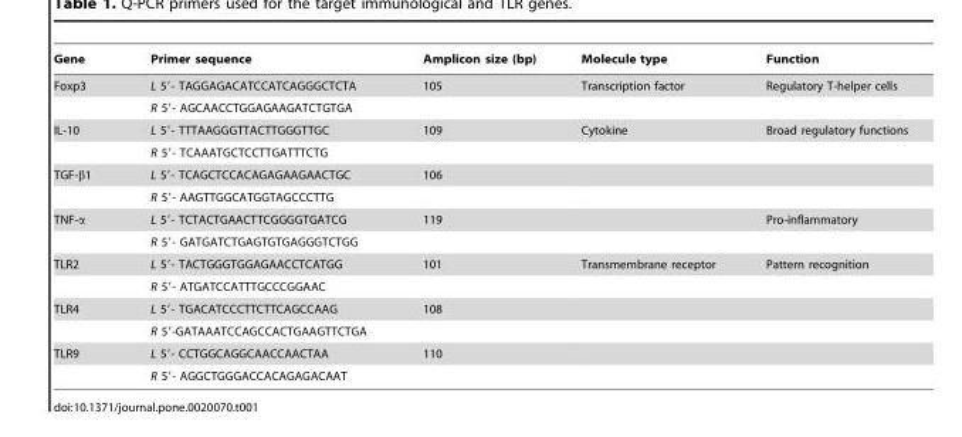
<table><thead><tr><td>Gene</td><td>Primer sequence</td><td>Amplicon size (bp)</td><td>Molecule type</td><td>Function</td></tr></thead><tbody><tr><td rowspan="2">Foxp3</td><td>L 5′- TAGGAGACATCCATCAGGGCTCTA</td><td>105</td><td>Transcription factor</td><td>Regulatory T-helper cells</td></tr><tr><td>R 5′- AGCAACCTGGAGAAGATCTGTGA</td><td></td><td></td><td></td></tr><tr><td rowspan="2">IL-10</td><td>L 5′- TTTAAGGGTTACTTGGGTTGC</td><td>109</td><td>Cytokine</td><td>Broad regulatory functions</td></tr><tr><td>R 5′- TCAAATGCTCCTTGATTTCTG</td><td></td><td></td><td></td></tr><tr><td rowspan="2">TGF-β1</td><td>L 5′- TCAGCTCCACAGAGAAGAACTGC</td><td>106</td><td></td><td></td></tr><tr><td>R 5′- AAGTTGGCATGGTAGCCCTTG</td><td></td><td></td><td></td></tr><tr><td rowspan="2">TNF-α</td><td>L 5′- TCTACTGAACTTCGGGGTGATCG</td><td>119</td><td></td><td>Pro-inflammatory</td></tr><tr><td>R 5′- GATGATCTGAGTGTGAGGGTCTGG</td><td></td><td></td><td></td></tr><tr><td rowspan="2">TLR2</td><td>L 5′- TACTGGGTGGAGAACCTCATGG</td><td>101</td><td>Transmembrane receptor</td><td>Pattern recognition</td></tr><tr><td>R 5′- ATGATCCATTTGCCCGGAAC</td><td></td><td></td><td></td></tr><tr><td rowspan="2">TLR4</td><td>L 5′- TGACATCCCTTCTTCAGCCAAG</td><td>108</td><td></td><td></td></tr><tr><td>R 5′-GATAAATCCAGCCACTGAAGTTCTGA</td><td></td><td></td><td></td></tr><tr><td rowspan="2">TLR9</td><td>L 5′- CCTGGCAGGCAACCAACTAA</td><td>110</td><td></td><td></td></tr><tr><td>R 5′- AGGCTGGGACCACAGAGACAAT</td><td></td><td></td><td></td></tr></tbody></table>